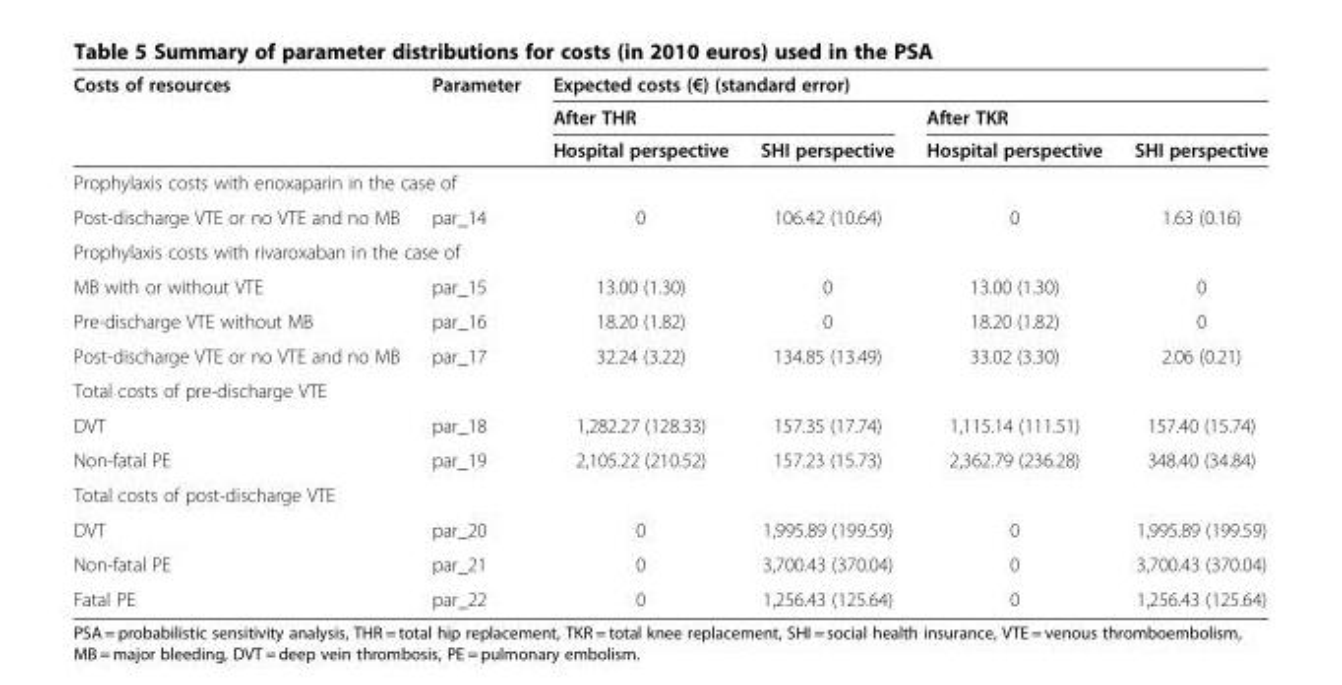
<table><thead><tr><td rowspan="3">Costs of resources</td><td rowspan="3">Parameter</td><td colspan="4">Expected costs (€) (standard error)</td></tr><tr><td colspan="2">After THR</td><td colspan="2">After TKR</td></tr><tr><td>Hospital perspective</td><td>SHI perspective</td><td>Hospital perspective</td><td>SHI perspective</td></tr></thead><tbody><tr><td colspan="6">Prophylaxis costs with enoxaparin in the case of</td></tr><tr><td>Post-discharge VTE or no VTE and no MB</td><td>par_14</td><td>0</td><td>106.42 (10.64)</td><td>0</td><td>1.63 (0.16)</td></tr><tr><td colspan="6">Prophylaxis costs with rivaroxaban in the case of</td></tr><tr><td>MB with or without VTE</td><td>par_15</td><td>13.00 (1.30)</td><td>0</td><td>13.00 (1.30)</td><td>0</td></tr><tr><td>Pre-discharge VTE without MB</td><td>par_16</td><td>18.20 (1.82)</td><td>0</td><td>18.20 (1.82)</td><td>0</td></tr><tr><td>Post-discharge VTE or no VTE and no MB</td><td>par_17</td><td>32.24 (3.22)</td><td>134.85 (13.49)</td><td>33.02 (3.30)</td><td>2.06 (0.21)</td></tr><tr><td colspan="6">Total costs of pre-discharge VTE</td></tr><tr><td>DVT</td><td>par_18</td><td>1,282.27 (128.33)</td><td>157.35 (17.74)</td><td>1,115.14 (111.51)</td><td>157.40 (15.74)</td></tr><tr><td>Non-fatal PE</td><td>par_19</td><td>2,105.22 (210.52)</td><td>157.23 (15.73)</td><td>2,362.79 (236.28)</td><td>348.40 (34.84)</td></tr><tr><td colspan="6">Total costs of post-discharge VTE</td></tr><tr><td>DVT</td><td>par_20</td><td>0</td><td>1,995.89 (199.59)</td><td>0</td><td>1,995.89 (199.59)</td></tr><tr><td>Non-fatal PE</td><td>par_21</td><td>0</td><td>3,700.43 (370.04)</td><td>0</td><td>3,700.43 (370.04)</td></tr><tr><td>Fatal PE</td><td>par_22</td><td>0</td><td>1,256.43 (125.64)</td><td>0</td><td>1,256.43 (125.64)</td></tr></tbody></table>